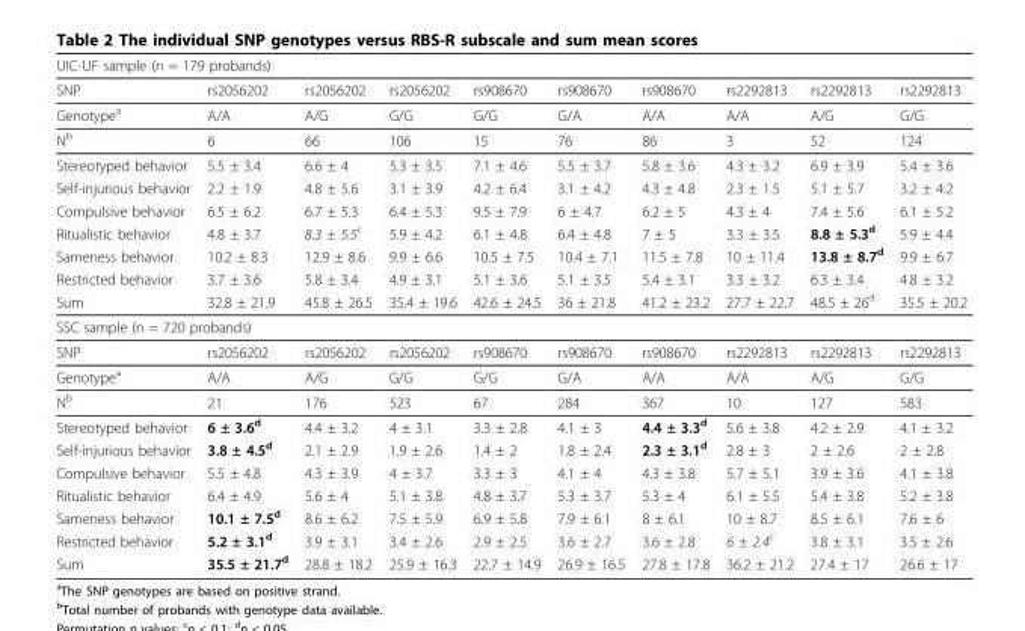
<table><thead><tr><td colspan="10">UIC-UF sample (n = 179 probands)</td></tr><tr><td>SNP</td><td>rs2056202</td><td>rs2056202</td><td>rs2056202</td><td>rs908670</td><td>rs908670</td><td>rs908670</td><td>rs2292813</td><td>rs2292813</td><td>rs2292813</td></tr></thead><tbody><tr><td>Genotype<sup>a</sup></td><td>A/A</td><td>A/G</td><td>G/G</td><td>G/G</td><td>G/A</td><td>A/A</td><td>A/A</td><td>A/G</td><td>G/G</td></tr><tr><td>N<sup>b</sup></td><td>6</td><td>66</td><td>106</td><td>15</td><td>76</td><td>86</td><td>3</td><td>52</td><td>124</td></tr><tr><td>Stereotyped behavior</td><td>5.5 ± 3.4</td><td>6.6 ± 4</td><td>5.3 ± 3.5</td><td>7.1 ± 4.6</td><td>5.5 ± 3.7</td><td>5.8 ± 3.6</td><td>4.3 ± 3.2</td><td>6.9 ± 3.9</td><td>5.4 ± 3.6</td></tr><tr><td>Self-injurious behavior</td><td>2.2 ± 1.9</td><td>4.8 ± 5.6</td><td>3.1 ± 3.9</td><td>4.2 ± 6.4</td><td>3.1 ± 4.2</td><td>4.3 ± 4.8</td><td>2.3 ± 1.5</td><td>5.1 ± 5.7</td><td>3.2 ± 4.2</td></tr><tr><td>Compulsive behavior</td><td>6.5 ± 6.2</td><td>6.7 ± 5.3</td><td>6.4 ± 5.3</td><td>9.5 ± 7.9</td><td>6 ± 4.7</td><td>6.2 ± 5</td><td>4.3 ± 4</td><td>7.4 ± 5.6</td><td>6.1 ± 5.2</td></tr><tr><td>Ritualistic behavior</td><td>4.8 ± 3.7</td><td>8.3 ± 5.5<sup>c</sup></td><td>5.9 ± 4.2</td><td>6.1 ± 4.8</td><td>6.4 ± 4.8</td><td>7 ± 5</td><td>3.3 ± 3.5</td><td>8.8 ± 5.3<sup>d</sup></td><td>5.9 ± 4.4</td></tr><tr><td>Sameness behavior</td><td>10.2 ± 8.3</td><td>12.9 ± 8.6</td><td>9.9 ± 6.6</td><td>10.5 ± 7.5</td><td>10.4 ± 7.1</td><td>11.5 ± 7.8</td><td>10 ± 11.4</td><td>13.8 ± 8.7<sup>d</sup></td><td>9.9 ± 6.7</td></tr><tr><td>Restricted behavior</td><td>3.7 ± 3.6</td><td>5.8 ± 3.4</td><td>4.9 ± 3.1</td><td>5.1 ± 3.6</td><td>5.1 ± 3.5</td><td>5.4 ± 3.1</td><td>3.3 ± 3.2</td><td>6.3 ± 3.4</td><td>4.8 ± 3.2</td></tr><tr><td>Sum</td><td>32.8 ± 21.9</td><td>45.8 ± 26.5</td><td>35.4 ± 19.6</td><td>42.6 ± 24.5</td><td>36 ± 21.8</td><td>41.2 ± 23.2</td><td>27.7 ± 22.7</td><td>48.5 ± 26<sup>d</sup></td><td>35.5 ± 20.2</td></tr><tr><td colspan="10">SSC sample (n = 720 probands)</td></tr><tr><td>SNP</td><td>rs2056202</td><td>rs2056202</td><td>rs2056202</td><td>rs908670</td><td>rs908670</td><td>rs908670</td><td>rs2292813</td><td>rs2292813</td><td>rs2292813</td></tr><tr><td>Genotype<sup>a</sup></td><td>A/A</td><td>A/G</td><td>G/G</td><td>G/G</td><td>G/A</td><td>A/A</td><td>A/A</td><td>A/G</td><td>G/G</td></tr><tr><td>N<sup>b</sup></td><td>21</td><td>176</td><td>523</td><td>67</td><td>284</td><td>367</td><td>10</td><td>127</td><td>583</td></tr><tr><td>Stereotyped behavior</td><td>6 ± 3.6<sup>d</sup></td><td>4.4 ± 3.2</td><td>4 ± 3.1</td><td>3.3 ± 2.8</td><td>4.1 ± 3</td><td>4.4 ± 3.3<sup>d</sup></td><td>5.6 ± 3.8</td><td>4.2 ± 2.9</td><td>4.1 ± 3.2</td></tr><tr><td>Self-injurious behavior</td><td>3.8 ± 4.5<sup>d</sup></td><td>2.1 ± 2.9</td><td>1.9 ± 2.6</td><td>1.4 ± 2</td><td>1.8 ± 2.4</td><td>2.3 ± 3.1<sup>d</sup></td><td>2.8 ± 3</td><td>2 ± 2.6</td><td>2 ± 2.8</td></tr><tr><td>Compulsive behavior</td><td>5.5 ± 4.8</td><td>4.3 ± 3.9</td><td>4 ± 3.7</td><td>3.3 ± 3</td><td>4.1 ± 4</td><td>4.3 ± 3.8</td><td>5.7 ± 5.1</td><td>3.9 ± 3.6</td><td>4.1 ± 3.8</td></tr><tr><td>Ritualistic behavior</td><td>6.4 ± 4.9</td><td>5.6 ± 4</td><td>5.1 ± 3.8</td><td>4.8 ± 3.7</td><td>5.3 ± 3.7</td><td>5.3 ± 4</td><td>6.1 ± 5.5</td><td>5.4 ± 3.8</td><td>5.2 ± 3.8</td></tr><tr><td>Sameness behavior</td><td>10.1 ± 7.5<sup>d</sup></td><td>8.6 ± 6.2</td><td>7.5 ± 5.9</td><td>6.9 ± 5.8</td><td>7.9 ± 6.1</td><td>8 ± 6.1</td><td>10 ± 8.7</td><td>8.5 ± 6.1</td><td>7.6 ± 6</td></tr><tr><td>Restricted behavior</td><td>5.2 ± 3.1<sup>d</sup></td><td>3.9 ± 3.1</td><td>3.4 ± 2.6</td><td>2.9 ± 2.5</td><td>3.6 ± 2.7</td><td>3.6 ± 2.8</td><td>6 ± 2.4<sup>c</sup></td><td>3.8 ± 3.1</td><td>3.5 ± 2.6</td></tr><tr><td>Sum</td><td>35.5 ± 21.7<sup>d</sup></td><td>28.8 ± 18.2</td><td>25.9 ± 16.3</td><td>22.7 ± 14.9</td><td>26.9 ± 16.5</td><td>27.8 ± 17.8</td><td>36.2 ± 21.2</td><td>27.4 ± 17</td><td>26.6 ± 17</td></tr></tbody></table>